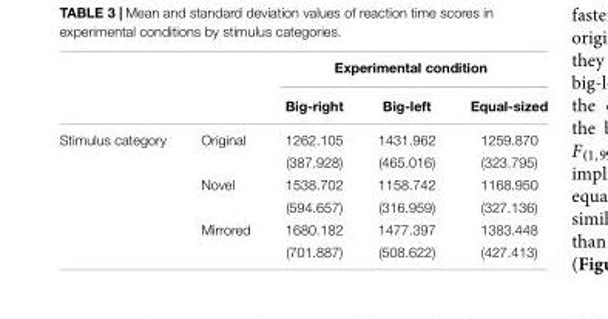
<table><thead><tr><td rowspan="2"></td><td rowspan="2"></td><td colspan="3">Experimental condition</td></tr><tr><td>Big-right</td><td>Big-left</td><td>Equal-sized</td></tr></thead><tbody><tr><td rowspan="6">Stimulus category</td><td>Original</td><td>1262.105</td><td>1431.962</td><td>1259.870</td></tr><tr><td></td><td>(387.928)</td><td>(465.016)</td><td>(323.795)</td></tr><tr><td>Novel</td><td>1538.702</td><td>1158.742</td><td>1168.950</td></tr><tr><td></td><td>(594.657)</td><td>(316.959)</td><td>(327.136)</td></tr><tr><td>Mirrored</td><td>1680.182</td><td>1477.397</td><td>1383.448</td></tr><tr><td></td><td>(701.887)</td><td>(508.622)</td><td>(427.413)</td></tr></tbody></table>